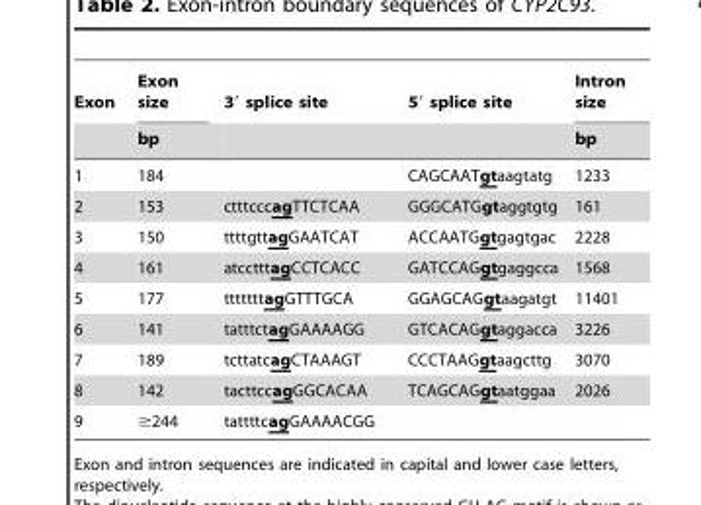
<table><thead><tr><td rowspan="2">Exon</td><td rowspan="2">Exon size bp</td><td rowspan="2">3′ splice site</td><td rowspan="2">5′ splice site</td><td rowspan="2">Intron size bp</td></tr><tr></tr></thead><tbody><tr><td>1</td><td>184</td><td></td><td>CAGCAATgtaagtatg</td><td>1233</td></tr><tr><td>2</td><td>153</td><td>ctttcccagTTCTCAA</td><td>GGGCATGgtaggtgtg</td><td>161</td></tr><tr><td>3</td><td>150</td><td>ttttgttagGAATCAT</td><td>ACCAATGgtgagtgac</td><td>2228</td></tr><tr><td>4</td><td>161</td><td>atcctttagCCTCACC</td><td>GATCCAGgtgaggcca</td><td>1568</td></tr><tr><td>5</td><td>177</td><td>tttttttagGTTTGCA</td><td>GGAGCAGgtaagatgt</td><td>11401</td></tr><tr><td>6</td><td>141</td><td>tatttctagGAAAAGG</td><td>GTCACAGgtaggacca</td><td>3226</td></tr><tr><td>7</td><td>189</td><td>tcttatcagCTAAAGT</td><td>CCCTAAGgtaagcttg</td><td>3070</td></tr><tr><td>8</td><td>142</td><td>tacttccagGGCACAA</td><td>TCAGCAGgtaatggaa</td><td>2026</td></tr><tr><td>9</td><td>≥244</td><td>tattttcagGAAAACGG</td><td></td><td></td></tr></tbody></table>